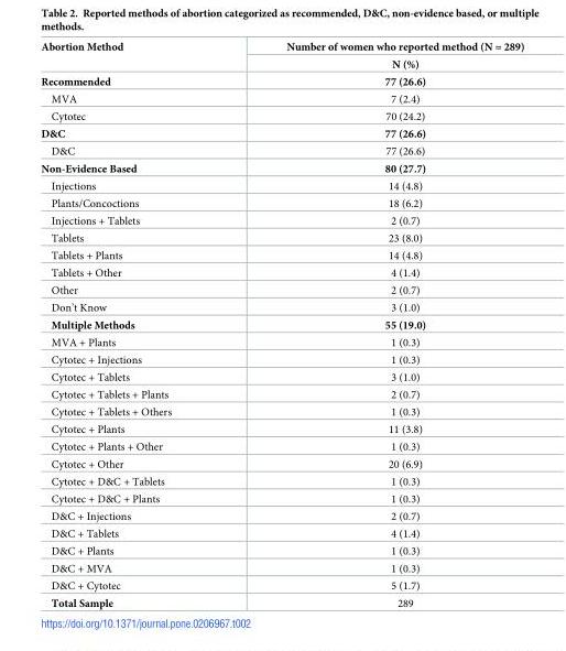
<table><thead><tr><td rowspan="2">Abortion Method</td><td rowspan="2">Number of women who reported method (N = 289) N (%)</td></tr><tr></tr></thead><tbody><tr><td>Recommended</td><td>77 (26.6)</td></tr><tr><td>MVA</td><td>7 (2.4)</td></tr><tr><td>Cytotec</td><td>70 (24.2)</td></tr><tr><td>D&amp;C</td><td>77 (26.6)</td></tr><tr><td>D&amp;C</td><td>77 (26.6)</td></tr><tr><td>Non-Evidence Based</td><td>80 (27.7)</td></tr><tr><td>Injections</td><td>14 (4.8)</td></tr><tr><td>Plants/Concoctions</td><td>18 (6.2)</td></tr><tr><td>Injections + Tablets</td><td>2 (0.7)</td></tr><tr><td>Tablets</td><td>23 (8.0)</td></tr><tr><td>Tablets + Plants</td><td>14 (4.8)</td></tr><tr><td>Tablets + Other</td><td>4 (1.4)</td></tr><tr><td>Other</td><td>2 (0.7)</td></tr><tr><td>Don’t Know</td><td>3 (1.0)</td></tr><tr><td>Multiple Methods</td><td>55 (19.0)</td></tr><tr><td>MVA + Plants</td><td>1 (0.3)</td></tr><tr><td>Cytotec + Injections</td><td>1 (0.3)</td></tr><tr><td>Cytotec + Tablets</td><td>3 (1.0)</td></tr><tr><td>Cytotec + Tablets + Plants</td><td>2 (0.7)</td></tr><tr><td>Cytotec + Tablets + Others</td><td>1 (0.3)</td></tr><tr><td>Cytotec + Plants</td><td>11 (3.8)</td></tr><tr><td>Cytotec + Plants + Other</td><td>1 (0.3)</td></tr><tr><td>Cytotec + Other</td><td>20 (6.9)</td></tr><tr><td>Cytotec + D&amp;C + Tablets</td><td>1 (0.3)</td></tr><tr><td>Cytotec + D&amp;C + Plants</td><td>1 (0.3)</td></tr><tr><td>D&amp;C + Injections</td><td>2 (0.7)</td></tr><tr><td>D&amp;C + Tablets</td><td>4 (1.4)</td></tr><tr><td>D&amp;C + Plants</td><td>1 (0.3)</td></tr><tr><td>D&amp;C + MVA</td><td>1 (0.3)</td></tr><tr><td>D&amp;C + Cytotec</td><td>5 (1.7)</td></tr><tr><td>Total Sample</td><td>289</td></tr></tbody></table>